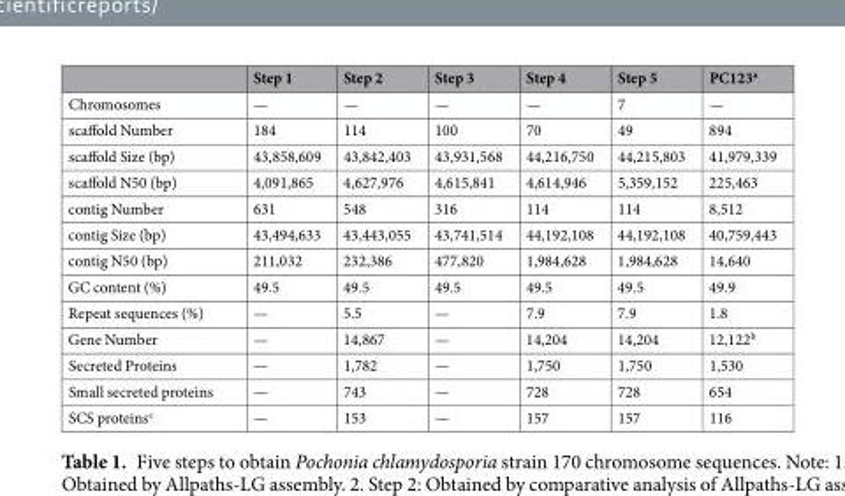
<table><thead><tr><td></td><td>Step 1</td><td>Step 2</td><td>Step 3</td><td>Step 4</td><td>Step 5</td><td>PC123<sup>a</sup></td></tr></thead><tbody><tr><td>Chromosomes</td><td>—</td><td>—</td><td>—</td><td>—</td><td>7</td><td>—</td></tr><tr><td>scaffold Number</td><td>184</td><td>114</td><td>100</td><td>70</td><td>49</td><td>894</td></tr><tr><td>scaffold Size (bp)</td><td>43,858,609</td><td>43,842,403</td><td>43,931,568</td><td>44,216,750</td><td>44,215,803</td><td>41,979,339</td></tr><tr><td>scaffold N50 (bp)</td><td>4,091,865</td><td>4,627,976</td><td>4,615,841</td><td>4,614,946</td><td>5,359,152</td><td>225,463</td></tr><tr><td>contig Number</td><td>631</td><td>548</td><td>316</td><td>114</td><td>114</td><td>8,512</td></tr><tr><td>contig Size (bp)</td><td>43,494,633</td><td>43,443,055</td><td>43,741,514</td><td>44,192,108</td><td>44,192,108</td><td>40,759,443</td></tr><tr><td>contig N50 (bp)</td><td>211,032</td><td>232,386</td><td>477,820</td><td>1,984,628</td><td>1,984,628</td><td>14,640</td></tr><tr><td>GC content (%)</td><td>49.5</td><td>49.5</td><td>49.5</td><td>49.5</td><td>49.5</td><td>49.9</td></tr><tr><td>Repeat sequences (%)</td><td>—</td><td>5.5</td><td>—</td><td>7.9</td><td>7.9</td><td>1.8</td></tr><tr><td>Gene Number</td><td>—</td><td>14,867</td><td>—</td><td>14,204</td><td>14,204</td><td>12,122<sup>b</sup></td></tr><tr><td>Secreted Proteins</td><td>—</td><td>1,782</td><td>—</td><td>1,750</td><td>1,750</td><td>1,530</td></tr><tr><td>Small secreted proteins</td><td>—</td><td>743</td><td>—</td><td>728</td><td>728</td><td>654</td></tr><tr><td>SCS proteins<sup>c</sup></td><td>—</td><td>153</td><td>—</td><td>157</td><td>157</td><td>116</td></tr></tbody></table>